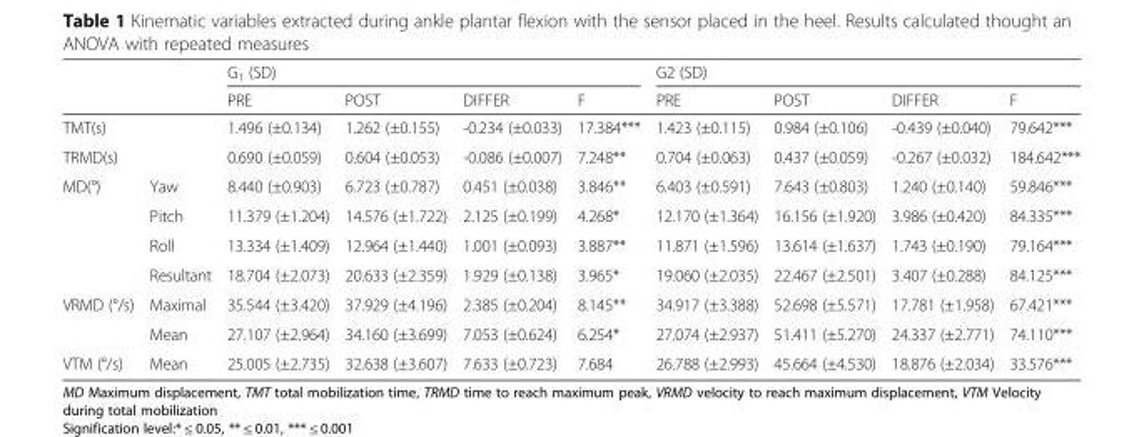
<table><thead><tr><td rowspan="2"></td><td rowspan="2"></td><td colspan="4">G<sub>1</sub> (SD)</td><td colspan="4">G2 (SD)</td></tr><tr><td>PRE</td><td>POST</td><td>DIFFER</td><td>F</td><td>PRE</td><td>POST</td><td>DIFFER</td><td>F</td></tr></thead><tbody><tr><td colspan="2">TMT(s)</td><td>1.496 (±0.134)</td><td>1.262 (±0.155)</td><td>-0.234 (±0.033)</td><td>17.384***</td><td>1.423 (±0.115)</td><td>0.984 (±0.106)</td><td>-0.439 (±0.040)</td><td>79.642***</td></tr><tr><td colspan="2">TRMD(s)</td><td>0.690 (±0.059)</td><td>0.604 (±0.053)</td><td>-0.086 (±0.007)</td><td>7.248**</td><td>0.704 (±0.063)</td><td>0.437 (±0.059)</td><td>-0.267 (±0.032)</td><td>184.642***</td></tr><tr><td rowspan="4">MD(°)</td><td>Yaw</td><td>8.440 (±0.903)</td><td>6.723 (±0.787)</td><td>0.451 (±0.038)</td><td>3.846**</td><td>6.403 (±0.591)</td><td>7.643 (±0.803)</td><td>1.240 (±0.140)</td><td>59.846***</td></tr><tr><td>Pitch</td><td>11.379 (±1.204)</td><td>14.576 (±1.722)</td><td>2.125 (±0.199)</td><td>4.268*</td><td>12.170 (±1.364)</td><td>16.156 (±1.920)</td><td>3.986 (±0.420)</td><td>84.335***</td></tr><tr><td>Roll</td><td>13.334 (±1.409)</td><td>12.964 (±1.440)</td><td>1.001 (±0.093)</td><td>3.887**</td><td>11.871 (±1.596)</td><td>13.614 (±1.637)</td><td>1.743 (±0.190)</td><td>79.164***</td></tr><tr><td>Resultant</td><td>18.704 (±2.073)</td><td>20.633 (±2.359)</td><td>1.929 (±0.138)</td><td>3.965*</td><td>19.060 (±2.035)</td><td>22.467 (±2.501)</td><td>3.407 (±0.288)</td><td>84.125***</td></tr><tr><td rowspan="2">VRMD (°/s)</td><td>Maximal</td><td>35.544 (±3.420)</td><td>37.929 (±4.196)</td><td>2.385 (±0.204)</td><td>8.145**</td><td>34.917 (±3.388)</td><td>52.698 (±5.571)</td><td>17.781 (±1.958)</td><td>67.421***</td></tr><tr><td>Mean</td><td>27.107 (±2.964)</td><td>34.160 (±3.699)</td><td>7.053 (±0.624)</td><td>6.254*</td><td>27.074 (±2.937)</td><td>51.411 (±5.270)</td><td>24.337 (±2.771)</td><td>74.110***</td></tr><tr><td>VTM (°/s)</td><td>Mean</td><td>25.005 (±2.735)</td><td>32.638 (±3.607)</td><td>7.633 (±0.723)</td><td>7.684</td><td>26.788 (±2.993)</td><td>45.664 (±4.530)</td><td>18.876 (±2.034)</td><td>33.576***</td></tr></tbody></table>